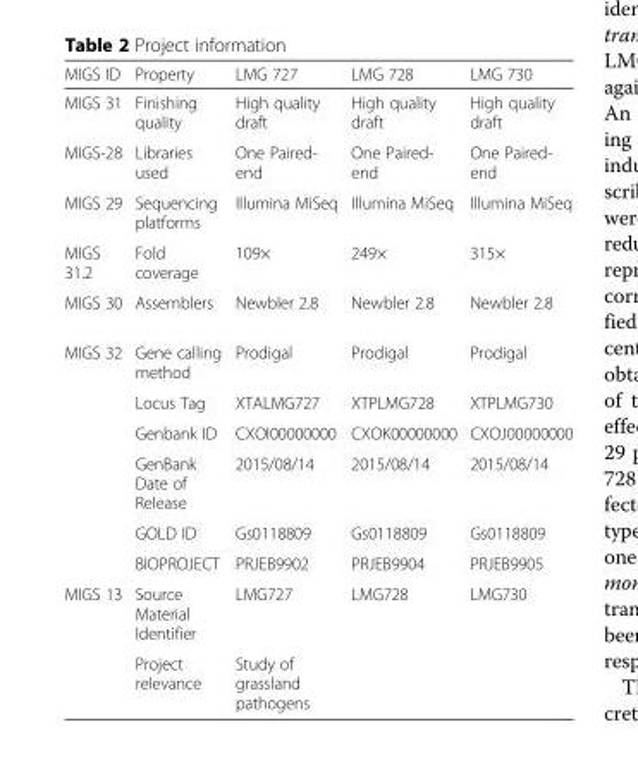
<table><thead><tr><td>MIGS ID</td><td>Property</td><td>LMG 727</td><td>LMG 728</td><td>LMG 730</td></tr></thead><tbody><tr><td>MIGS 31</td><td>Finishing quality</td><td>High quality draft</td><td>High quality draft</td><td>High quality draft</td></tr><tr><td>MIGS-28</td><td>Libraries used</td><td>One Paired- end</td><td>One Paired- end</td><td>One Paired- end</td></tr><tr><td>MIGS 29</td><td>Sequencing platforms</td><td>Illumina MiSeq</td><td>Illumina MiSeq</td><td>Illumina MiSeq</td></tr><tr><td>MIGS 31.2</td><td>Fold coverage</td><td>109×</td><td>249×</td><td>315×</td></tr><tr><td>MIGS 30</td><td>Assemblers</td><td>Newbler 2.8</td><td>Newbler 2.8</td><td>Newbler 2.8</td></tr><tr><td rowspan="6">MIGS 32</td><td>Gene calling method</td><td>Prodigal</td><td>Prodigal</td><td>Prodigal</td></tr><tr><td>Locus Tag</td><td>XTALMG727</td><td>XTPLMG728</td><td>XTPLMG730</td></tr><tr><td>Genbank ID</td><td>CXOI00000000</td><td>CXOK00000000</td><td>CXOJ00000000</td></tr><tr><td>GenBank Date of Release</td><td>2015/08/14</td><td>2015/08/14</td><td>2015/08/14</td></tr><tr><td>GOLD ID</td><td>Gs0118809</td><td>Gs0118809</td><td>Gs0118809</td></tr><tr><td>BIOPROJECT</td><td>PRJEB9902</td><td>PRJEB9904</td><td>PRJEB9905</td></tr><tr><td rowspan="2">MIGS 13</td><td>Source Material Identifier</td><td>LMG727</td><td>LMG728</td><td>LMG730</td></tr><tr><td>Project relevance</td><td>Study of grassland pathogens</td><td></td><td></td></tr></tbody></table>